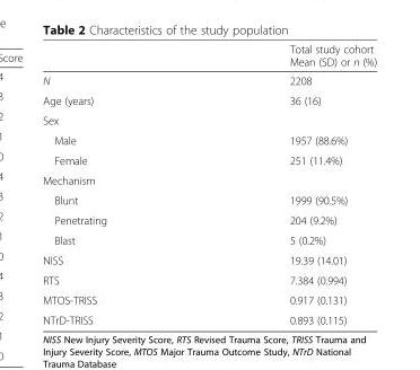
<table><thead><tr><td></td><td>Total study cohort Mean (SD) or n (%)</td></tr></thead><tbody><tr><td>N</td><td>2208</td></tr><tr><td>Age (years)</td><td>36 (16)</td></tr><tr><td colspan="2">Sex</td></tr><tr><td>Male</td><td>1957 (88.6%)</td></tr><tr><td>Female</td><td>251 (11.4%)</td></tr><tr><td colspan="2">Mechanism</td></tr><tr><td>Blunt</td><td>1999 (90.5%)</td></tr><tr><td>Penetrating</td><td>204 (9.2%)</td></tr><tr><td>Blast</td><td>5 (0.2%)</td></tr><tr><td>NISS</td><td>19.39 (14.01)</td></tr><tr><td>RTS</td><td>7.384 (0.994)</td></tr><tr><td>MTOS-TRISS</td><td>0.917 (0.131)</td></tr><tr><td>NTrD-TRISS</td><td>0.893 (0.115)</td></tr></tbody></table>